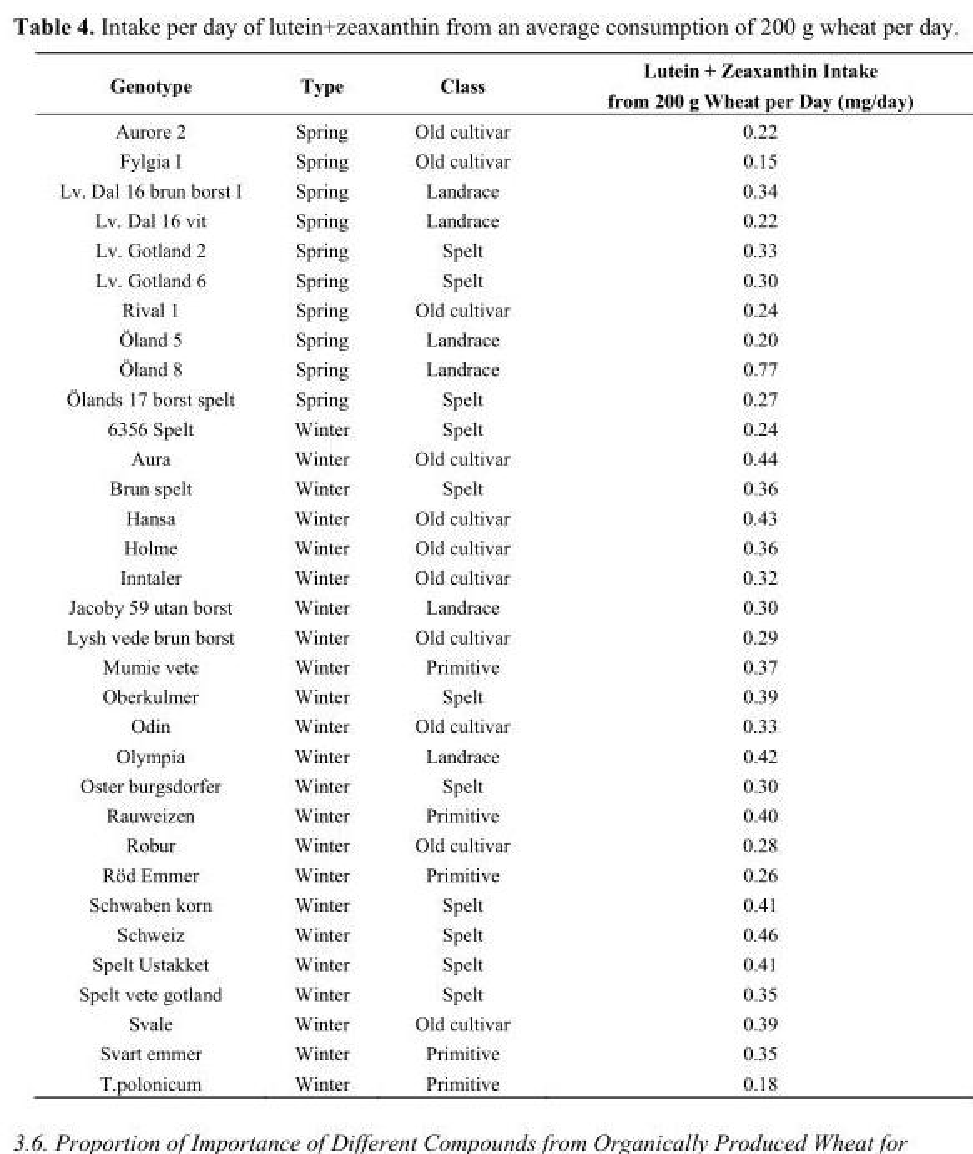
<table><thead><tr><td>Genotype</td><td>Type</td><td>Class</td><td>Lutein + Zeaxanthin Intake from 200 g Wheat per Day (mg/day)</td></tr></thead><tbody><tr><td>Aurore 2</td><td>Spring</td><td>Old cultivar</td><td>0.22</td></tr><tr><td>Fylgia I</td><td>Spring</td><td>Old cultivar</td><td>0.15</td></tr><tr><td>Lv. Dal 16 brun borst I</td><td>Spring</td><td>Landrace</td><td>0.34</td></tr><tr><td>Lv. Dal 16 vit</td><td>Spring</td><td>Landrace</td><td>0.22</td></tr><tr><td>Lv. Gotland 2</td><td>Spring</td><td>Spelt</td><td>0.33</td></tr><tr><td>Lv. Gotland 6</td><td>Spring</td><td>Spelt</td><td>0.30</td></tr><tr><td>Rival 1</td><td>Spring</td><td>Old cultivar</td><td>0.24</td></tr><tr><td>Öland 5</td><td>Spring</td><td>Landrace</td><td>0.20</td></tr><tr><td>Öland 8</td><td>Spring</td><td>Landrace</td><td>0.77</td></tr><tr><td>Ölands 17 borst spelt</td><td>Spring</td><td>Spelt</td><td>0.27</td></tr><tr><td>6356 Spelt</td><td>Winter</td><td>Spelt</td><td>0.24</td></tr><tr><td>Aura</td><td>Winter</td><td>Old cultivar</td><td>0.44</td></tr><tr><td>Brun spelt</td><td>Winter</td><td>Spelt</td><td>0.36</td></tr><tr><td>Hansa</td><td>Winter</td><td>Old cultivar</td><td>0.43</td></tr><tr><td>Holme</td><td>Winter</td><td>Old cultivar</td><td>0.36</td></tr><tr><td>Inntaler</td><td>Winter</td><td>Old cultivar</td><td>0.32</td></tr><tr><td>Jacoby 59 utan borst</td><td>Winter</td><td>Landrace</td><td>0.30</td></tr><tr><td>Lysh vede brun borst</td><td>Winter</td><td>Old cultivar</td><td>0.29</td></tr><tr><td>Mumie vete</td><td>Winter</td><td>Primitive</td><td>0.37</td></tr><tr><td>Oberkulmer</td><td>Winter</td><td>Spelt</td><td>0.39</td></tr><tr><td>Odin</td><td>Winter</td><td>Old cultivar</td><td>0.33</td></tr><tr><td>Olympia</td><td>Winter</td><td>Landrace</td><td>0.42</td></tr><tr><td>Oster burgsdorfer</td><td>Winter</td><td>Spelt</td><td>0.30</td></tr><tr><td>Rauweizen</td><td>Winter</td><td>Primitive</td><td>0.40</td></tr><tr><td>Robur</td><td>Winter</td><td>Old cultivar</td><td>0.28</td></tr><tr><td>Röd Emmer</td><td>Winter</td><td>Primitive</td><td>0.26</td></tr><tr><td>Schwaben korn</td><td>Winter</td><td>Spelt</td><td>0.41</td></tr><tr><td>Schweiz</td><td>Winter</td><td>Spelt</td><td>0.46</td></tr><tr><td>Spelt Ustakket</td><td>Winter</td><td>Spelt</td><td>0.41</td></tr><tr><td>Spelt vete gotland</td><td>Winter</td><td>Spelt</td><td>0.35</td></tr><tr><td>Svale</td><td>Winter</td><td>Old cultivar</td><td>0.39</td></tr><tr><td>Svart emmer</td><td>Winter</td><td>Primitive</td><td>0.35</td></tr><tr><td>T.polonicum</td><td>Winter</td><td>Primitive</td><td>0.18</td></tr></tbody></table>